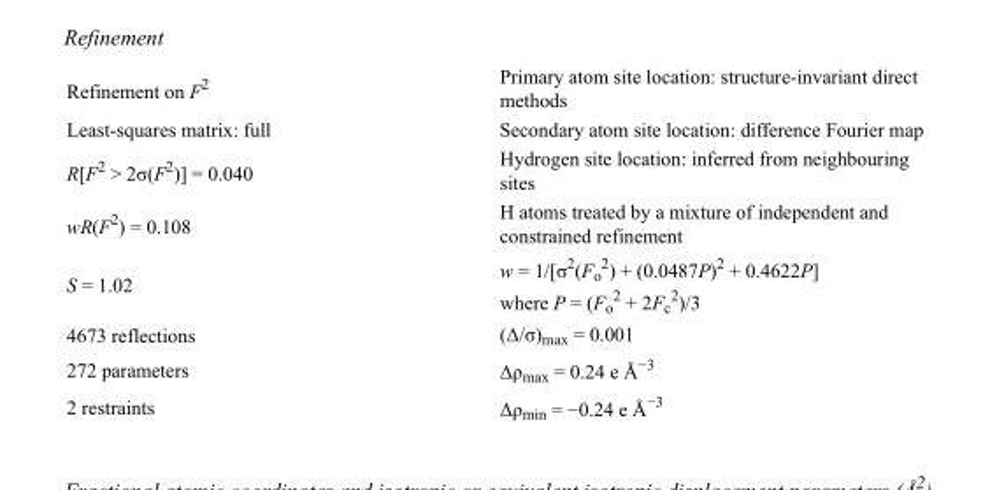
<table><tbody><tr><td>Refinement on F<sup>2</sup></td><td>Primary atom site location: structure-invariant direct methods</td></tr><tr><td>Least-squares matrix: full</td><td>Secondary atom site location: difference Fourier map</td></tr><tr><td>R[F<sup>2</sup> &gt; 2σ(F<sup>2</sup>)] = 0.040</td><td>Hydrogen site location: inferred from neighbouring sites</td></tr><tr><td>wR(F<sup>2</sup>) = 0.108</td><td>H atoms treated by a mixture of independent and constrained refinement</td></tr><tr><td>S = 1.02</td><td>w = 1/[σ<sup>2</sup>(F<sub>o</sub> <sup>2</sup>) + (0.0487P)<sup>2</sup> + 0.4622P] where P = (F<sub>o</sub> <sup>2</sup> + 2F<sub>c</sub> <sup>2</sup>)/3</td></tr><tr><td>4673 reflections</td><td>(Δ/σ)<sub>max</sub> = 0.001</td></tr><tr><td>272 parameters</td><td>Δρ<sub>max</sub> = 0.24 e Å<sup>−3</sup></td></tr><tr><td>2 restraints</td><td>Δρ<sub>min</sub> = −0.24 e Å<sup>−3</sup></td></tr></tbody></table>